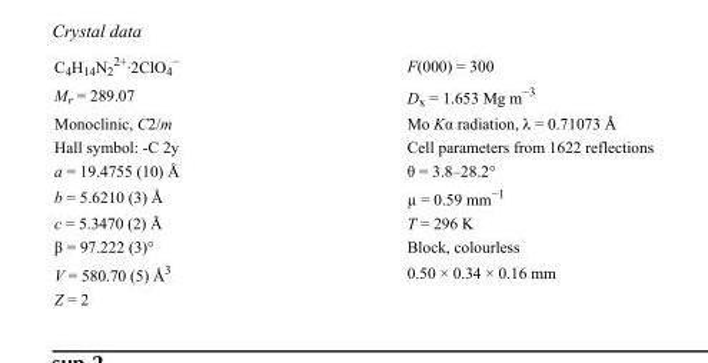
<table><tbody><tr><td>C<sub>4</sub>H<sub>14</sub>N<sub>2</sub> <sup>2+</sup>·2ClO<sub>4</sub> <sup>−</sup></td><td>F(000) = 300</td></tr><tr><td>M<sub>r</sub> = 289.07</td><td>D<sub>x</sub> = 1.653 Mg m<sup>−3</sup></td></tr><tr><td>Monoclinic, C2/m</td><td>Mo Kα radiation, λ = 0.71073 Å</td></tr><tr><td>Hall symbol: -C 2y</td><td>Cell parameters from 1622 reflections</td></tr><tr><td>a = 19.4755 (10) Å</td><td>θ = 3.8–28.2°</td></tr><tr><td>b = 5.6210 (3) Å</td><td>µ = 0.59 mm<sup>−1</sup></td></tr><tr><td>c = 5.3470 (2) Å</td><td>T = 296 K</td></tr><tr><td>β = 97.222 (3)°</td><td>Block, colourless</td></tr><tr><td>V = 580.70 (5) Å<sup>3</sup></td><td>0.50 × 0.34 × 0.16 mm</td></tr><tr><td>Z = 2</td><td></td></tr></tbody></table>